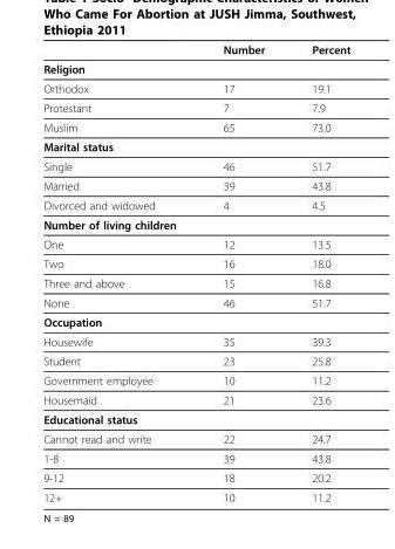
<table><thead><tr><td></td><td>Number</td><td>Percent</td></tr></thead><tbody><tr><td colspan="3">Religion</td></tr><tr><td>Orthodox</td><td>17</td><td>19.1</td></tr><tr><td>Protestant</td><td>7</td><td>7.9</td></tr><tr><td>Muslim</td><td>65</td><td>73.0</td></tr><tr><td colspan="3">Marital status</td></tr><tr><td>Single</td><td>46</td><td>51.7</td></tr><tr><td>Married</td><td>39</td><td>43.8</td></tr><tr><td>Divorced and widowed</td><td>4</td><td>4.5</td></tr><tr><td colspan="3">Number of living children</td></tr><tr><td>One</td><td>12</td><td>13.5</td></tr><tr><td>Two</td><td>16</td><td>18.0</td></tr><tr><td>Three and above</td><td>15</td><td>16.8</td></tr><tr><td>None</td><td>46</td><td>51.7</td></tr><tr><td colspan="3">Occupation</td></tr><tr><td>Housewife</td><td>35</td><td>39.3</td></tr><tr><td>Student</td><td>23</td><td>25.8</td></tr><tr><td>Government employee</td><td>10</td><td>11.2</td></tr><tr><td>Housemaid</td><td>21</td><td>23.6</td></tr><tr><td colspan="3">Educational status</td></tr><tr><td>Cannot read and write</td><td>22</td><td>24.7</td></tr><tr><td>1-8</td><td>39</td><td>43.8</td></tr><tr><td>9-12</td><td>18</td><td>20.2</td></tr><tr><td>12+</td><td>10</td><td>11.2</td></tr></tbody></table>